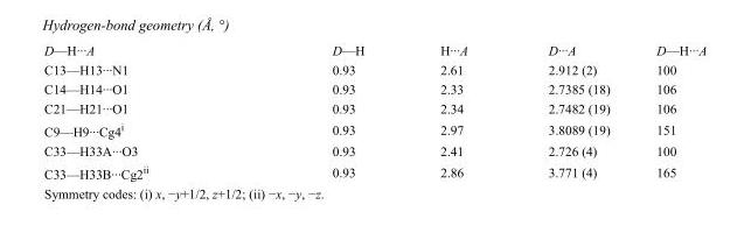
<table><tbody><tr><td>D—H···A</td><td>D—H</td><td>H···A</td><td>D···A</td><td>D—H···A</td></tr><tr><td>C13—H13···N1</td><td>0.93</td><td>2.61</td><td>2.912 (2)</td><td>100</td></tr><tr><td>C14—H14···O1</td><td>0.93</td><td>2.33</td><td>2.7385 (18)</td><td>106</td></tr><tr><td>C21—H21···O1</td><td>0.93</td><td>2.34</td><td>2.7482 (19)</td><td>106</td></tr><tr><td>C9—H9···Cg4<sup>i</sup></td><td>0.93</td><td>2.97</td><td>3.8089 (19)</td><td>151</td></tr><tr><td>C33—H33A···O3</td><td>0.93</td><td>2.41</td><td>2.726 (4)</td><td>100</td></tr><tr><td>C33—H33B···Cg2<sup>ii</sup></td><td>0.93</td><td>2.86</td><td>3.771 (4)</td><td>165</td></tr></tbody></table>